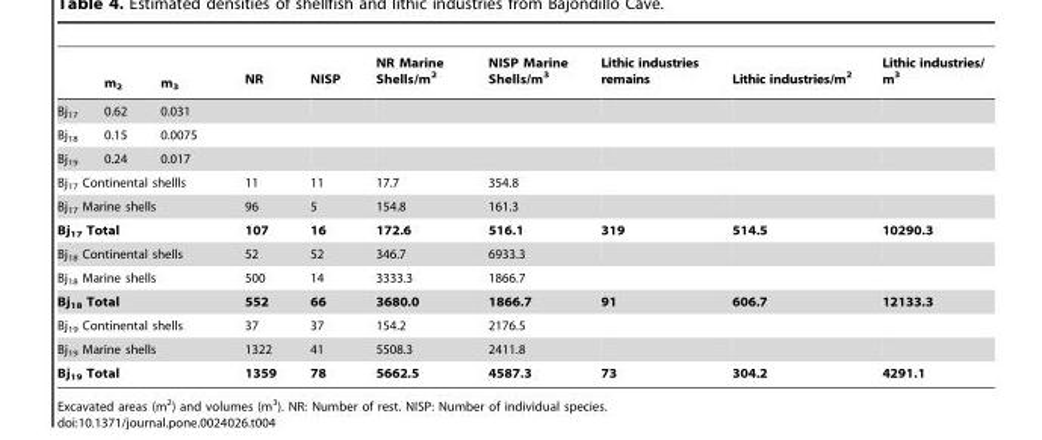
<table><thead><tr><td></td><td>m<sub>2</sub></td><td>m<sub>3</sub></td><td>NR</td><td>NISP</td><td>NR Marine Shells/m<sup>2</sup></td><td>NISP Marine Shells/m<sup>3</sup></td><td>Lithic industries remains</td><td>Lithic industries/m<sup>2</sup></td><td>Lithic industries/ m<sup>3</sup></td></tr></thead><tbody><tr><td>Bj<sub>17</sub></td><td>0.62</td><td>0.031</td><td></td><td></td><td></td><td></td><td></td><td></td><td></td></tr><tr><td>Bj<sub>18</sub></td><td>0.15</td><td>0.0075</td><td></td><td></td><td></td><td></td><td></td><td></td><td></td></tr><tr><td>Bj<sub>19</sub></td><td>0.24</td><td>0.017</td><td></td><td></td><td></td><td></td><td></td><td></td><td></td></tr><tr><td colspan="3">Bj<sub>17</sub> Continental shellls</td><td>11</td><td>11</td><td>17.7</td><td>354.8</td><td></td><td></td><td></td></tr><tr><td colspan="3">Bj<sub>17</sub> Marine shells</td><td>96</td><td>5</td><td>154.8</td><td>161.3</td><td></td><td></td><td></td></tr><tr><td colspan="3">Bj<sub>17</sub> Total</td><td>107</td><td>16</td><td>172.6</td><td>516.1</td><td>319</td><td>514.5</td><td>10290.3</td></tr><tr><td colspan="3">Bj<sub>18</sub> Continental shells</td><td>52</td><td>52</td><td>346.7</td><td>6933.3</td><td></td><td></td><td></td></tr><tr><td colspan="3">Bj<sub>18</sub> Marine shells</td><td>500</td><td>14</td><td>3333.3</td><td>1866.7</td><td></td><td></td><td></td></tr><tr><td colspan="3">Bj<sub>18</sub> Total</td><td>552</td><td>66</td><td>3680.0</td><td>1866.7</td><td>91</td><td>606.7</td><td>12133.3</td></tr><tr><td colspan="3">Bj<sub>19</sub> Continental shells</td><td>37</td><td>37</td><td>154.2</td><td>2176.5</td><td></td><td></td><td></td></tr><tr><td colspan="3">Bj<sub>19</sub> Marine shells</td><td>1322</td><td>41</td><td>5508.3</td><td>2411.8</td><td></td><td></td><td></td></tr><tr><td colspan="3">Bj<sub>19</sub> Total</td><td>1359</td><td>78</td><td>5662.5</td><td>4587.3</td><td>73</td><td>304.2</td><td>4291.1</td></tr></tbody></table>